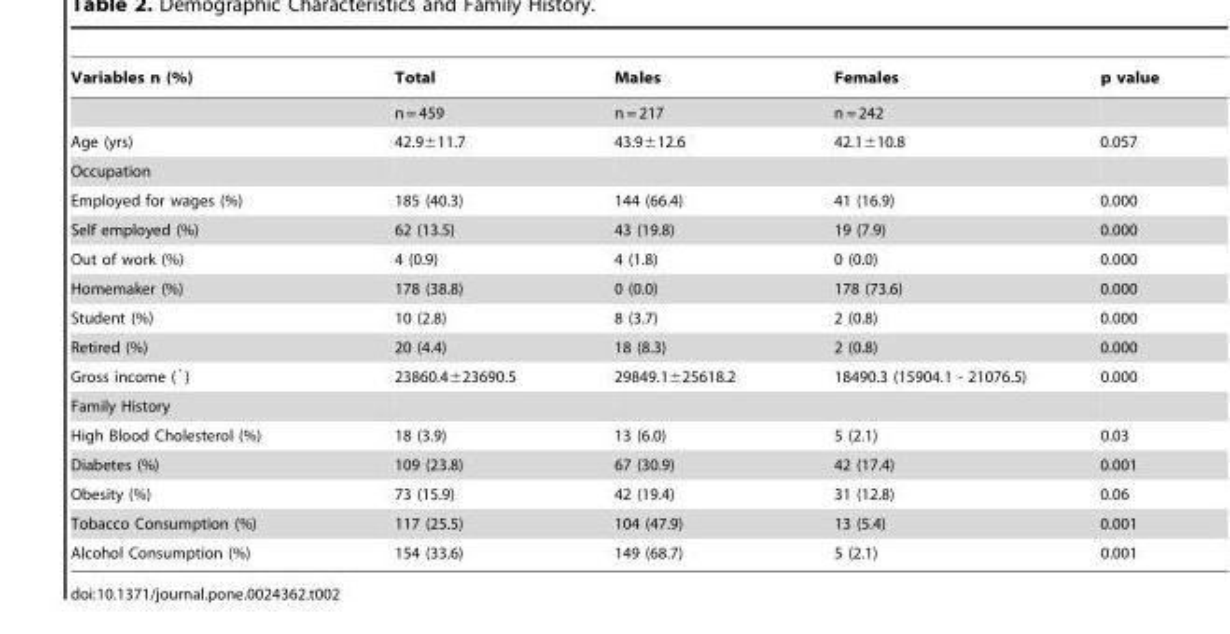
<table><thead><tr><td>Variables n (%)</td><td>Total</td><td>Males</td><td>Females</td><td>p value</td></tr></thead><tbody><tr><td></td><td>n = 459</td><td>n = 217</td><td>n = 242</td><td></td></tr><tr><td>Age (yrs)</td><td>42.9±11.7</td><td>43.9±12.6</td><td>42.1±10.8</td><td>0.057</td></tr><tr><td colspan="5">Occupation</td></tr><tr><td>Employed for wages (%)</td><td>185 (40.3)</td><td>144 (66.4)</td><td>41 (16.9)</td><td>0.000</td></tr><tr><td>Self employed (%)</td><td>62 (13.5)</td><td>43 (19.8)</td><td>19 (7.9)</td><td>0.000</td></tr><tr><td>Out of work (%)</td><td>4 (0.9)</td><td>4 (1.8)</td><td>0 (0.0)</td><td>0.000</td></tr><tr><td>Homemaker (%)</td><td>178 (38.8)</td><td>0 (0.0)</td><td>178 (73.6)</td><td>0.000</td></tr><tr><td>Student (%)</td><td>10 (2.8)</td><td>8 (3.7)</td><td>2 (0.8)</td><td>0.000</td></tr><tr><td>Retired (%)</td><td>20 (4.4)</td><td>18 (8.3)</td><td>2 (0.8)</td><td>0.000</td></tr><tr><td>Gross income (`)</td><td>23860.4±23690.5</td><td>29849.1±25618.2</td><td>18490.3 (15904.1 - 21076.5)</td><td>0.000</td></tr><tr><td colspan="5">Family History</td></tr><tr><td>High Blood Cholesterol (%)</td><td>18 (3.9)</td><td>13 (6.0)</td><td>5 (2.1)</td><td>0.03</td></tr><tr><td>Diabetes (%)</td><td>109 (23.8)</td><td>67 (30.9)</td><td>42 (17.4)</td><td>0.001</td></tr><tr><td>Obesity (%)</td><td>73 (15.9)</td><td>42 (19.4)</td><td>31 (12.8)</td><td>0.06</td></tr><tr><td>Tobacco Consumption (%)</td><td>117 (25.5)</td><td>104 (47.9)</td><td>13 (5.4)</td><td>0.001</td></tr><tr><td>Alcohol Consumption (%)</td><td>154 (33.6)</td><td>149 (68.7)</td><td>5 (2.1)</td><td>0.001</td></tr></tbody></table>